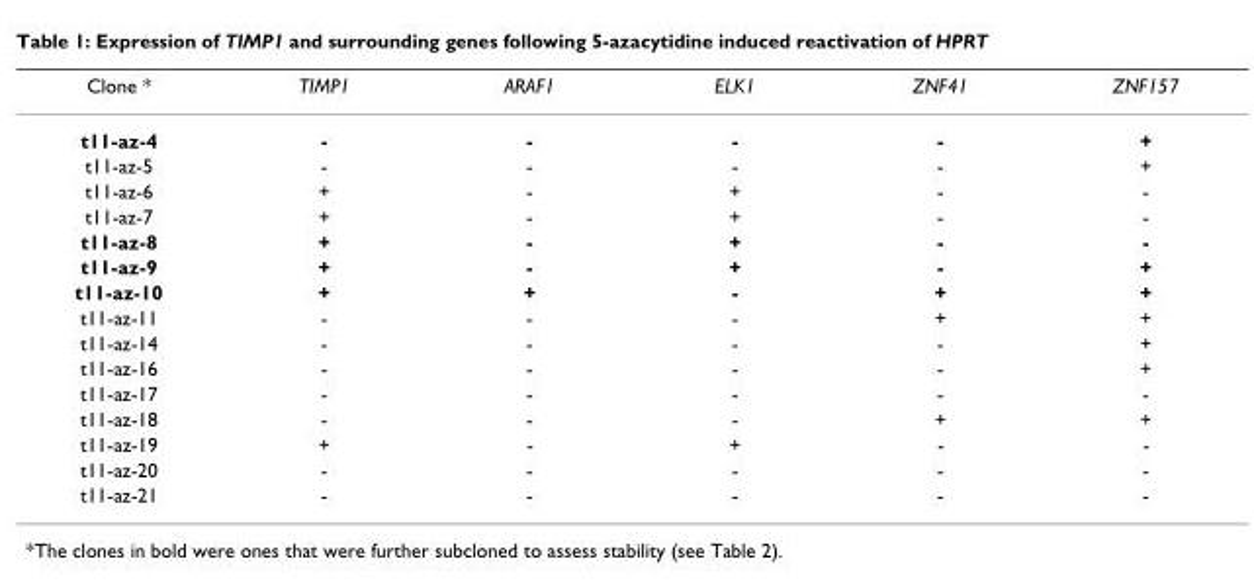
<table><thead><tr><td>Clone *</td><td>TIMP1</td><td>ARAF1</td><td>ELK1</td><td>ZNF41</td><td>ZNF157</td></tr></thead><tbody><tr><td>t11-az-4</td><td>-</td><td>-</td><td>-</td><td>-</td><td>+</td></tr><tr><td>t11-az-5</td><td>-</td><td>-</td><td>-</td><td>-</td><td>+</td></tr><tr><td>t11-az-6</td><td>+</td><td>-</td><td>+</td><td>-</td><td>-</td></tr><tr><td>t11-az-7</td><td>+</td><td>-</td><td>+</td><td>-</td><td>-</td></tr><tr><td>t11-az-8</td><td>+</td><td>-</td><td>+</td><td>-</td><td>-</td></tr><tr><td>t11-az-9</td><td>+</td><td>-</td><td>+</td><td>-</td><td>+</td></tr><tr><td>t11-az-10</td><td>+</td><td>+</td><td>-</td><td>+</td><td>+</td></tr><tr><td>t11-az-11</td><td>-</td><td>-</td><td>-</td><td>+</td><td>+</td></tr><tr><td>t11-az-14</td><td>-</td><td>-</td><td>-</td><td>-</td><td>+</td></tr><tr><td>t11-az-16</td><td>-</td><td>-</td><td>-</td><td>-</td><td>+</td></tr><tr><td>t11-az-17</td><td>-</td><td>-</td><td>-</td><td>-</td><td>-</td></tr><tr><td>t11-az-18</td><td>-</td><td>-</td><td>-</td><td>+</td><td>+</td></tr><tr><td>t11-az-19</td><td>+</td><td>-</td><td>+</td><td>-</td><td>-</td></tr><tr><td>t11-az-20</td><td>-</td><td>-</td><td>-</td><td>-</td><td>-</td></tr><tr><td>t11-az-21</td><td>-</td><td>-</td><td>-</td><td>-</td><td>-</td></tr></tbody></table>